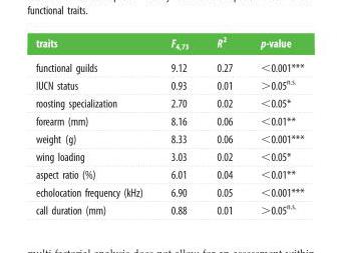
<table><thead><tr><td>traits</td><td>F<sub>4,73</sub></td><td>R<sup>2</sup></td><td>p-value</td></tr></thead><tbody><tr><td>functional guilds</td><td>9.12</td><td>0.27</td><td>&lt;0.001***</td></tr><tr><td>IUCN status</td><td>0.93</td><td>0.01</td><td>&gt;0.05<sup>n.s.</sup></td></tr><tr><td>roosting specialization</td><td>2.70</td><td>0.02</td><td>&lt;0.05*</td></tr><tr><td>forearm (mm)</td><td>8.16</td><td>0.06</td><td>&lt;0.01**</td></tr><tr><td>weight (g)</td><td>8.33</td><td>0.06</td><td>&lt;0.001***</td></tr><tr><td>wing loading</td><td>3.03</td><td>0.02</td><td>&lt;0.05*</td></tr><tr><td>aspect ratio (%)</td><td>6.01</td><td>0.04</td><td>&lt;0.01**</td></tr><tr><td>echolocation frequency (kHz)</td><td>6.90</td><td>0.05</td><td>&lt;0.001***</td></tr><tr><td>call duration (mm)</td><td>0.88</td><td>0.01</td><td>&gt;0.05<sup>n.s.</sup></td></tr></tbody></table>